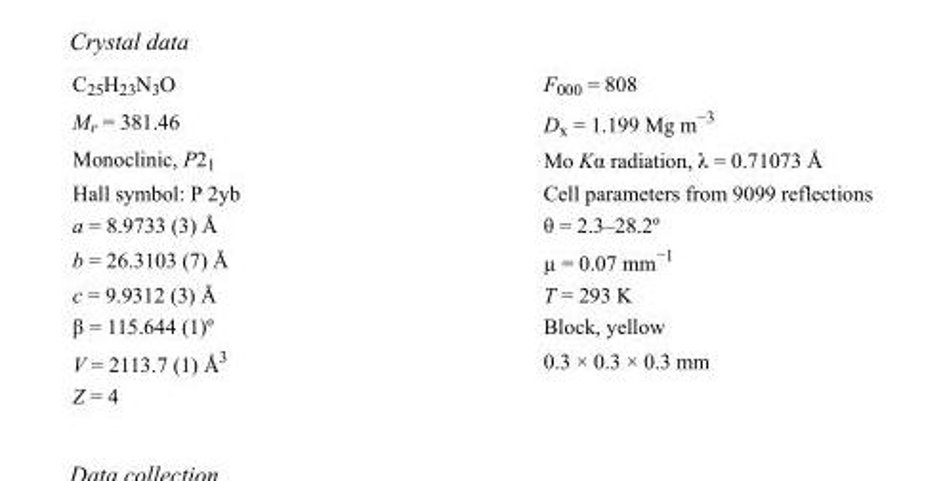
<table><tbody><tr><td>C<sub>25</sub>H<sub>23</sub>N<sub>3</sub>O</td><td>F000 = 808</td></tr><tr><td>M<sub>r</sub> = 381.46</td><td>D<sub>x</sub> = 1.199 Mg m<sup>−3</sup></td></tr><tr><td>Monoclinic, P2<sub>1</sub></td><td>Mo Kα radiation, λ = 0.71073 Å</td></tr><tr><td>Hall symbol: P 2yb</td><td>Cell parameters from 9099 reflections</td></tr><tr><td>a = 8.9733 (3) Å</td><td>θ = 2.3–28.2º</td></tr><tr><td>b = 26.3103 (7) Å</td><td>µ = 0.07 mm<sup>−1</sup></td></tr><tr><td>c = 9.9312 (3) Å</td><td>T = 293 K</td></tr><tr><td>β = 115.644 (1)º</td><td>Block, yellow</td></tr><tr><td>V = 2113.7 (1) Å<sup>3</sup></td><td>0.3 × 0.3 × 0.3 mm</td></tr><tr><td>Z = 4</td><td></td></tr></tbody></table>